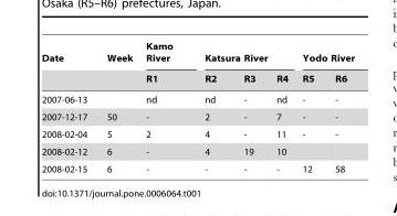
<table><thead><tr><td rowspan="2">Date</td><td rowspan="2">Week</td><td rowspan="2">Kamo River R1</td><td colspan="3">Katsura River</td><td colspan="2">Yodo River</td></tr><tr><td>R2</td><td>R3</td><td>R4</td><td>R5</td><td>R6</td></tr></thead><tbody><tr><td>2007-06-13</td><td></td><td>nd</td><td>nd</td><td>-</td><td>nd</td><td>-</td><td>-</td></tr><tr><td>2007-12-17</td><td>50</td><td>-</td><td>2</td><td>-</td><td>7</td><td>-</td><td>-</td></tr><tr><td>2008-02-04</td><td>5</td><td>2</td><td>4</td><td>-</td><td>11</td><td>-</td><td>-</td></tr><tr><td>2008-02-12</td><td>6</td><td>-</td><td>4</td><td>19</td><td>10</td><td></td><td></td></tr><tr><td>2008-02-15</td><td>6</td><td>-</td><td>-</td><td>-</td><td>-</td><td>12</td><td>58</td></tr></tbody></table>